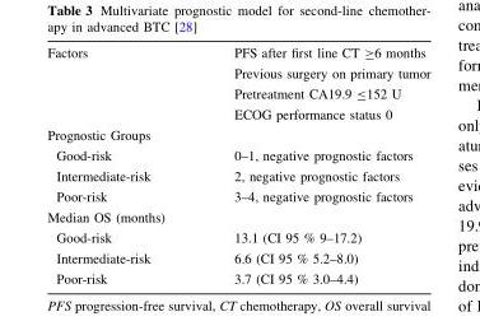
<table><tbody><tr><td rowspan="4">Factors</td><td>PFS after first line CT ≥6 months</td></tr><tr><td>Previous surgery on primary tumor</td></tr><tr><td>Pretreatment CA19.9 ≤152 U</td></tr><tr><td>ECOG performance status 0</td></tr><tr><td colspan="2">Prognostic Groups</td></tr><tr><td>Good-risk</td><td>0–1, negative prognostic factors</td></tr><tr><td>Intermediate-risk</td><td>2, negative prognostic factors</td></tr><tr><td>Poor-risk</td><td>3–4, negative prognostic factors</td></tr><tr><td colspan="2">Median OS (months)</td></tr><tr><td>Good-risk</td><td>13.1 (CI 95 % 9–17.2)</td></tr><tr><td>Intermediate-risk</td><td>6.6 (CI 95 % 5.2–8.0)</td></tr><tr><td>Poor-risk</td><td>3.7 (CI 95 % 3.0–4.4)</td></tr></tbody></table>